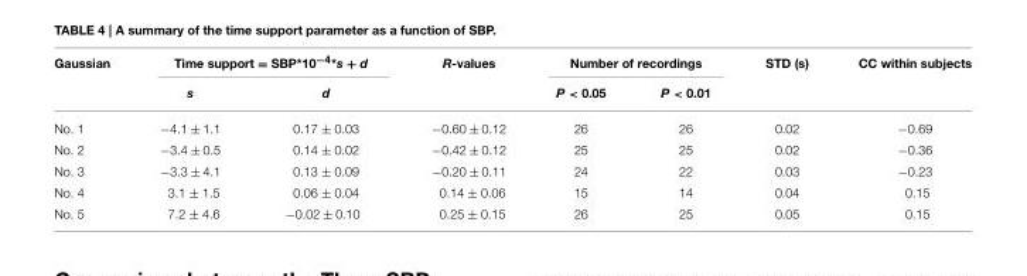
<table><thead><tr><td rowspan="2">Gaussian</td><td colspan="2">Time support = SBP*10<sup>−4*</sup>s + d</td><td rowspan="2">R-values</td><td colspan="2">Number of recordings</td><td rowspan="2">STD (s)</td><td rowspan="2">CC within subjects</td></tr><tr><td>s</td><td>d</td><td>P &lt; 0.05</td><td>P &lt; 0.01</td></tr></thead><tbody><tr><td>No. 1</td><td>−4.1 ± 1.1</td><td>0.17 ± 0.03</td><td>−0.60 ± 0.12</td><td>26</td><td>26</td><td>0.02</td><td>−0.69</td></tr><tr><td>No. 2</td><td>−3.4 ± 0.5</td><td>0.14 ± 0.02</td><td>−0.42 ± 0.12</td><td>25</td><td>25</td><td>0.02</td><td>−0.36</td></tr><tr><td>No. 3</td><td>−3.3 ± 4.1</td><td>0.13 ± 0.09</td><td>−0.20 ± 0.11</td><td>24</td><td>22</td><td>0.03</td><td>−0.23</td></tr><tr><td>No. 4</td><td>3.1 ± 1.5</td><td>0.06 ± 0.04</td><td>0.14 ± 0.06</td><td>15</td><td>14</td><td>0.04</td><td>0.15</td></tr><tr><td>No. 5</td><td>7.2 ± 4.6</td><td>−0.02 ± 0.10</td><td>0.25 ± 0.15</td><td>26</td><td>25</td><td>0.05</td><td>0.15</td></tr></tbody></table>